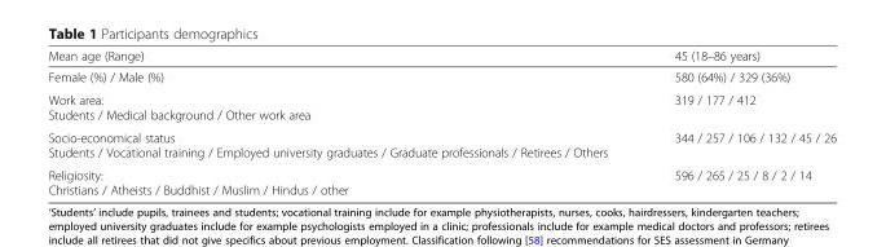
<table><thead><tr><td>Mean age (Range)</td><td>45 (18–86 years)</td></tr></thead><tbody><tr><td>Female (%) / Male (%)</td><td>580 (64%) / 329 (36%)</td></tr><tr><td>Work area: Students / Medical background / Other work area</td><td>319 / 177 / 412</td></tr><tr><td>Socio-economical status Students / Vocational training / Employed university graduates / Graduate professionals / Retirees / Others</td><td>344 / 257 / 106 / 132 / 45 / 26</td></tr><tr><td>Religiosity: Christians / Atheists / Buddhist / Muslim / Hindus / other</td><td>596 / 265 / 25 / 8 / 2 / 14</td></tr></tbody></table>